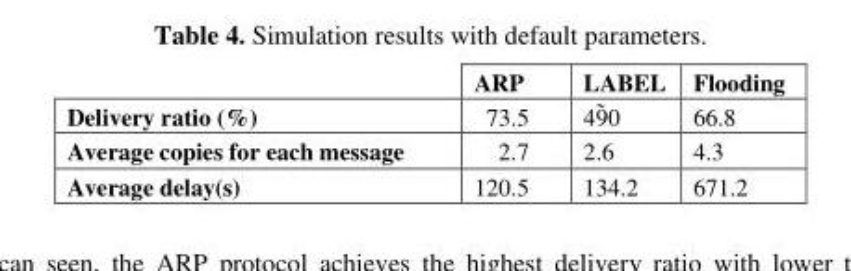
<table><thead><tr><td></td><td>ARP</td><td>LABEL</td><td>Flooding</td></tr></thead><tbody><tr><td>Delivery ratio (%)</td><td>73.5</td><td>490</td><td>66.8</td></tr><tr><td>Average copies for each message</td><td>2.7</td><td>2.6</td><td>4.3</td></tr><tr><td>Average delay(s)</td><td>120.5</td><td>134.2</td><td>671.2</td></tr></tbody></table>